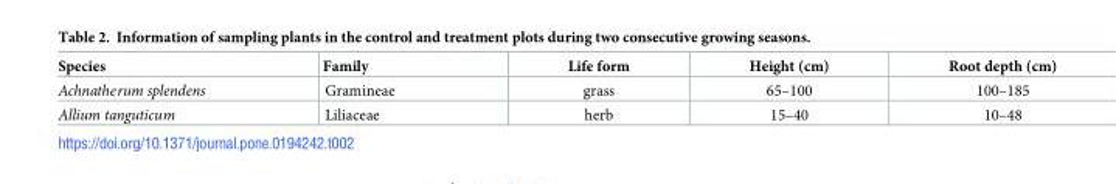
<table><thead><tr><td>Species</td><td>Family</td><td>Life form</td><td>Height (cm)</td><td>Root depth (cm)</td></tr></thead><tbody><tr><td>Achnatherum splendens</td><td>Gramineae</td><td>grass</td><td>65–100</td><td>100–185</td></tr><tr><td>Allium tanguticum</td><td>Liliaceae</td><td>herb</td><td>15–40</td><td>10–48</td></tr></tbody></table>